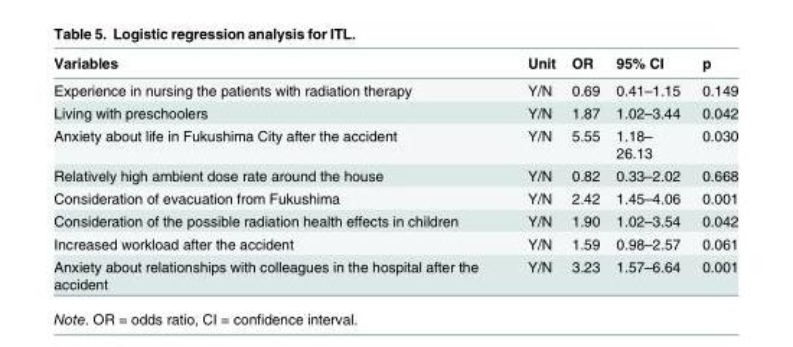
<table><thead><tr><td>Variables</td><td>Unit</td><td>OR</td><td>95% CI</td><td>p</td></tr></thead><tbody><tr><td>Experience in nursing the patients with radiation therapy</td><td>Y/N</td><td>0.69</td><td>0.41–1.15</td><td>0.149</td></tr><tr><td>Living with preschoolers</td><td>Y/N</td><td>1.87</td><td>1.02–3.44</td><td>0.042</td></tr><tr><td>Anxiety about life in Fukushima City after the accident</td><td>Y/N</td><td>5.55</td><td>1.18– 26.13</td><td>0.030</td></tr><tr><td>Relatively high ambient dose rate around the house</td><td>Y/N</td><td>0.82</td><td>0.33–2.02</td><td>0.668</td></tr><tr><td>Consideration of evacuation from Fukushima</td><td>Y/N</td><td>2.42</td><td>1.45–4.06</td><td>0.001</td></tr><tr><td>Consideration of the possible radiation health effects in children</td><td>Y/N</td><td>1.90</td><td>1.02–3.54</td><td>0.042</td></tr><tr><td>Increased workload after the accident</td><td>Y/N</td><td>1.59</td><td>0.98–2.57</td><td>0.061</td></tr><tr><td>Anxiety about relationships with colleagues in the hospital after the accident</td><td>Y/N</td><td>3.23</td><td>1.57–6.64</td><td>0.001</td></tr></tbody></table>